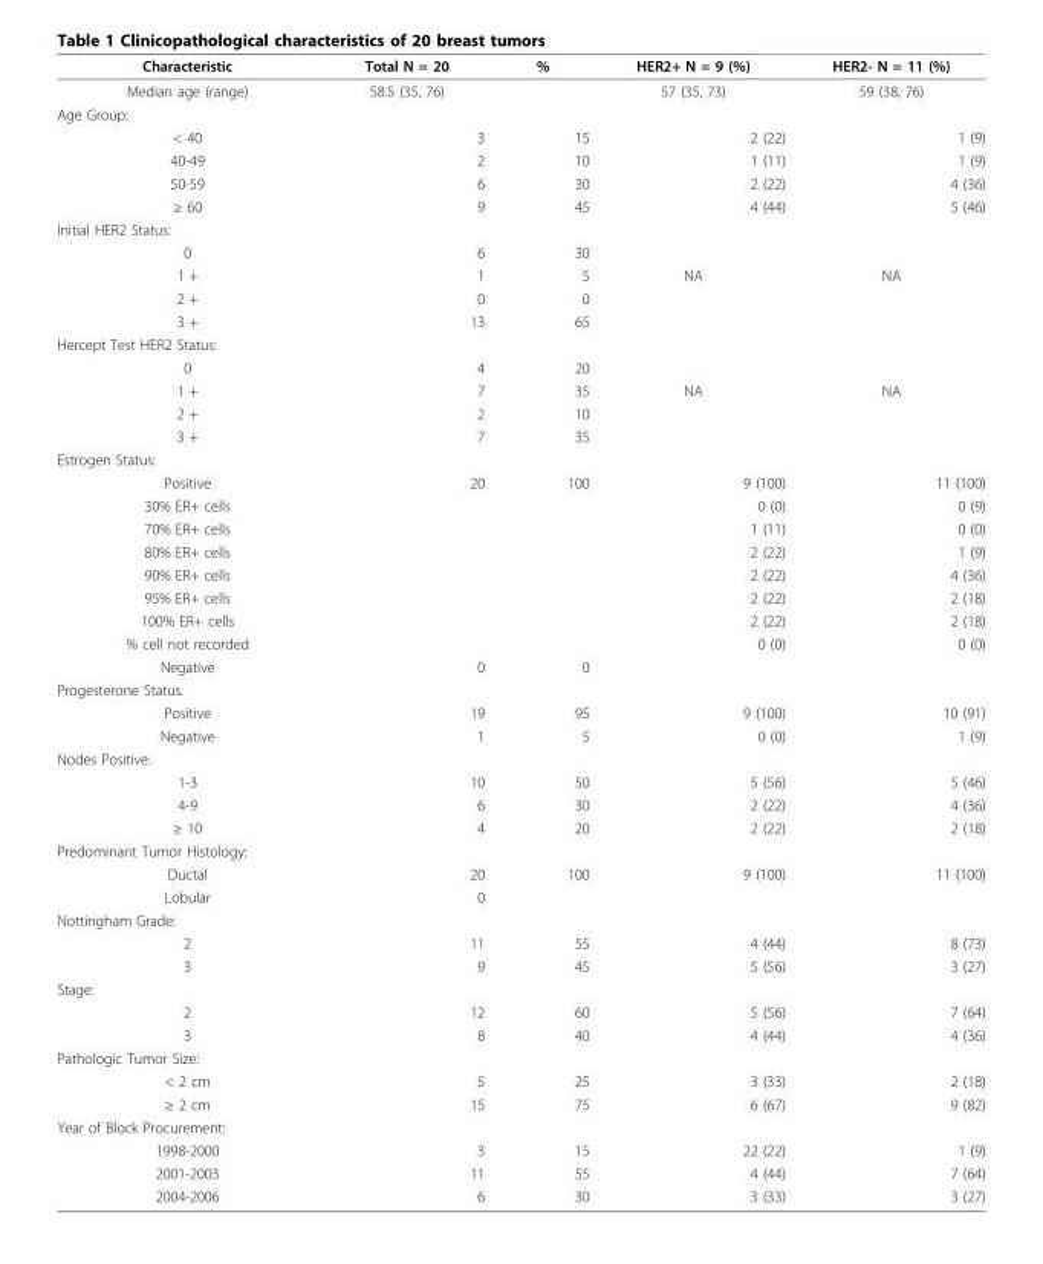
<table><thead><tr><td>Characteristic</td><td>Total N = 20</td><td>%</td><td>HER2+ N = 9 (%)</td><td>HER2- N = 11 (%)</td></tr></thead><tbody><tr><td>Median age (range)</td><td>58.5 (35, 76)</td><td></td><td>57 (35, 73)</td><td>59 (38, 76)</td></tr><tr><td colspan="5">Age Group:</td></tr><tr><td>&lt; 40</td><td>3</td><td>15</td><td>2 (22)</td><td>1 (9)</td></tr><tr><td>40-49</td><td>2</td><td>10</td><td>1 (11)</td><td>1 (9)</td></tr><tr><td>50-59</td><td>6</td><td>30</td><td>2 (22)</td><td>4 (36)</td></tr><tr><td>≥ 60</td><td>9</td><td>45</td><td>4 (44)</td><td>5 (46)</td></tr><tr><td colspan="5">Initial HER2 Status:</td></tr><tr><td>0</td><td>6</td><td>30</td><td></td><td></td></tr><tr><td>1 +</td><td>1</td><td>5</td><td>NA</td><td>NA</td></tr><tr><td>2 +</td><td>0</td><td>0</td><td></td><td></td></tr><tr><td>3 +</td><td>13</td><td>65</td><td></td><td></td></tr><tr><td colspan="5">Hercept Test HER2 Status:</td></tr><tr><td>0</td><td>4</td><td>20</td><td></td><td></td></tr><tr><td>1 +</td><td>7</td><td>35</td><td>NA</td><td>NA</td></tr><tr><td>2 +</td><td>2</td><td>10</td><td></td><td></td></tr><tr><td>3 +</td><td>7</td><td>35</td><td></td><td></td></tr><tr><td colspan="5">Estrogen Status:</td></tr><tr><td>Positive</td><td>20</td><td>100</td><td>9 (100)</td><td>11 (100)</td></tr><tr><td>30% ER+ cells</td><td></td><td></td><td>0 (0)</td><td>0 (9)</td></tr><tr><td>70% ER+ cells</td><td></td><td></td><td>1 (11)</td><td>0 (0)</td></tr><tr><td>80% ER+ cells</td><td></td><td></td><td>2 (22)</td><td>1 (9)</td></tr><tr><td>90% ER+ cells</td><td></td><td></td><td>2 (22)</td><td>4 (36)</td></tr><tr><td>95% ER+ cells</td><td></td><td></td><td>2 (22)</td><td>2 (18)</td></tr><tr><td>100% ER+ cells</td><td></td><td></td><td>2 (22)</td><td>2 (18)</td></tr><tr><td>% cell not recorded</td><td></td><td></td><td>0 (0)</td><td>0 (0)</td></tr><tr><td>Negative</td><td>0</td><td>0</td><td></td><td></td></tr><tr><td colspan="5">Progesterone Status:</td></tr><tr><td>Positive</td><td>19</td><td>95</td><td>9 (100)</td><td>10 (91)</td></tr><tr><td>Negative</td><td>1</td><td>5</td><td>0 (0)</td><td>1 (9)</td></tr><tr><td colspan="5">Nodes Positive:</td></tr><tr><td>1-3</td><td>10</td><td>50</td><td>5 (56)</td><td>5 (46)</td></tr><tr><td>4-9</td><td>6</td><td>30</td><td>2 (22)</td><td>4 (36)</td></tr><tr><td>≥ 10</td><td>4</td><td>20</td><td>2 (22)</td><td>2 (18)</td></tr><tr><td colspan="5">Predominant Tumor Histology:</td></tr><tr><td>Ductal</td><td>20</td><td>100</td><td>9 (100)</td><td>11 (100)</td></tr><tr><td>Lobular</td><td>0</td><td></td><td></td><td></td></tr><tr><td colspan="5">Nottingham Grade:</td></tr><tr><td>2</td><td>11</td><td>55</td><td>4 (44)</td><td>8 (73)</td></tr><tr><td>3</td><td>9</td><td>45</td><td>5 (56)</td><td>3 (27)</td></tr><tr><td colspan="5">Stage:</td></tr><tr><td>2</td><td>12</td><td>60</td><td>5 (56)</td><td>7 (64)</td></tr><tr><td>3</td><td>8</td><td>40</td><td>4 (44)</td><td>4 (36)</td></tr><tr><td colspan="5">Pathologic Tumor Size:</td></tr><tr><td>&lt; 2 cm</td><td>5</td><td>25</td><td>3 (33)</td><td>2 (18)</td></tr><tr><td>≥ 2 cm</td><td>15</td><td>75</td><td>6 (67)</td><td>9 (82)</td></tr><tr><td colspan="5">Year of Block Procurement:</td></tr><tr><td>1998-2000</td><td>3</td><td>15</td><td>22 (22)</td><td>1 (9)</td></tr><tr><td>2001-2003</td><td>11</td><td>55</td><td>4 (44)</td><td>7 (64)</td></tr><tr><td>2004-2006</td><td>6</td><td>30</td><td>3 (33)</td><td>3 (27)</td></tr></tbody></table>